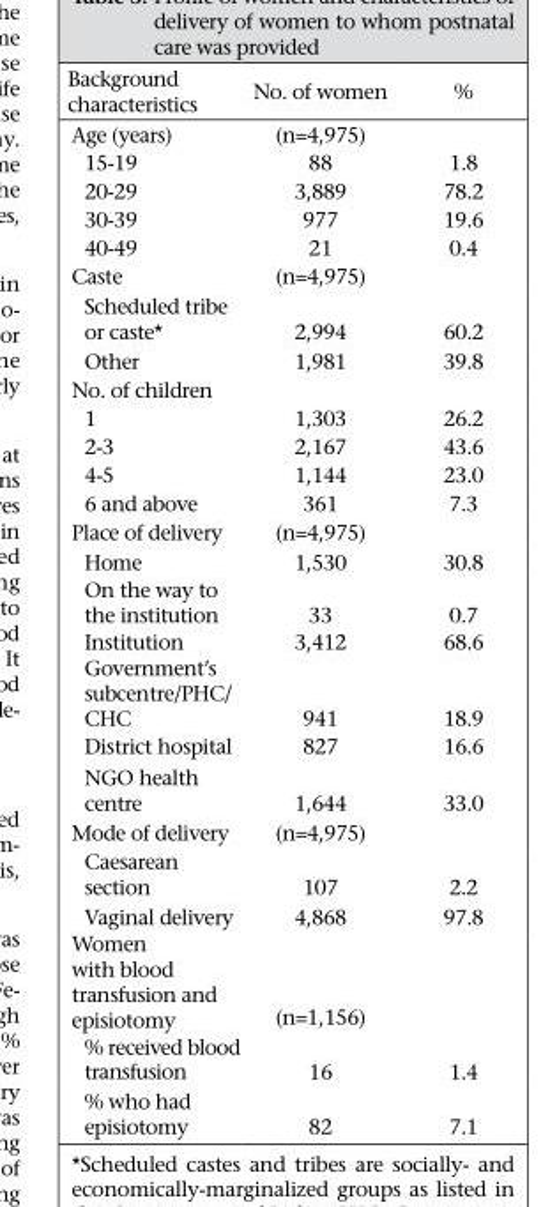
<table><thead><tr><td>Background characteristics</td><td>No. of women</td><td>%</td></tr></thead><tbody><tr><td>Age (years)</td><td>(n=4,975)</td><td></td></tr><tr><td>15-19</td><td>88</td><td>1.8</td></tr><tr><td>20-29</td><td>3,889</td><td>78.2</td></tr><tr><td>30-39</td><td>977</td><td>19.6</td></tr><tr><td>40-49</td><td>21</td><td>0.4</td></tr><tr><td>Caste</td><td>(n=4,975)</td><td></td></tr><tr><td>Scheduled tribe or caste*</td><td>2,994</td><td>60.2</td></tr><tr><td>Other</td><td>1,981</td><td>39.8</td></tr><tr><td colspan="3">No. of children</td></tr><tr><td>1</td><td>1,303</td><td>26.2</td></tr><tr><td>2-3</td><td>2,167</td><td>43.6</td></tr><tr><td>4-5</td><td>1,144</td><td>23.0</td></tr><tr><td>6 and above</td><td>361</td><td>7.3</td></tr><tr><td>Place of delivery</td><td>(n=4,975)</td><td></td></tr><tr><td>Home</td><td>1,530</td><td>30.8</td></tr><tr><td>On the way to the institution</td><td>33</td><td>0.7</td></tr><tr><td>Institution</td><td>3,412</td><td>68.6</td></tr><tr><td>Government’s subcentre/PHC/ CHC</td><td>941</td><td>18.9</td></tr><tr><td>District hospital</td><td>827</td><td>16.6</td></tr><tr><td>NGO health centre</td><td>1,644</td><td>33.0</td></tr><tr><td>Mode of delivery</td><td>(n=4,975)</td><td></td></tr><tr><td>Caesarean section</td><td>107</td><td>2.2</td></tr><tr><td>Vaginal delivery</td><td>4,868</td><td>97.8</td></tr><tr><td>Women with blood transfusion and episiotomy</td><td>(n=1,156)</td><td></td></tr><tr><td>% received blood transfusion</td><td>16</td><td>1.4</td></tr><tr><td>% who had episiotomy</td><td>82</td><td>7.1</td></tr></tbody></table>